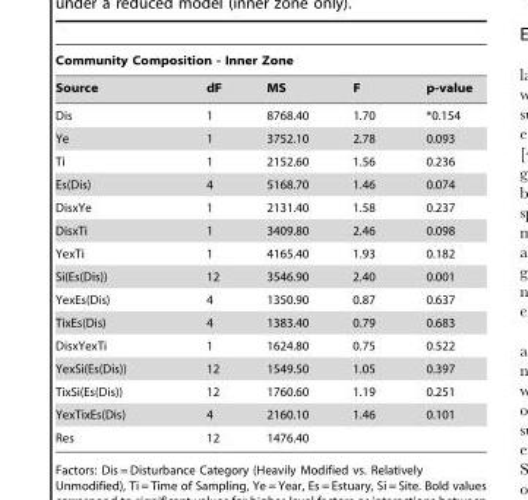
<table><thead><tr><td colspan="5">Community Composition - Inner Zone</td></tr><tr><td>Source</td><td>dF</td><td>MS</td><td>F</td><td>p-value</td></tr></thead><tbody><tr><td>Dis</td><td>1</td><td>8768.40</td><td>1.70</td><td>*0.154</td></tr><tr><td>Ye</td><td>1</td><td>3752.10</td><td>2.78</td><td>0.093</td></tr><tr><td>Ti</td><td>1</td><td>2152.60</td><td>1.56</td><td>0.236</td></tr><tr><td>Es(Dis)</td><td>4</td><td>5168.70</td><td>1.46</td><td>0.074</td></tr><tr><td>DisxYe</td><td>1</td><td>2131.40</td><td>1.58</td><td>0.237</td></tr><tr><td>DisxTi</td><td>1</td><td>3409.80</td><td>2.46</td><td>0.098</td></tr><tr><td>YexTi</td><td>1</td><td>4165.40</td><td>1.93</td><td>0.182</td></tr><tr><td>Si(Es(Dis))</td><td>12</td><td>3546.90</td><td>2.40</td><td>0.001</td></tr><tr><td>YexEs(Dis)</td><td>4</td><td>1350.90</td><td>0.87</td><td>0.637</td></tr><tr><td>TixEs(Dis)</td><td>4</td><td>1383.40</td><td>0.79</td><td>0.683</td></tr><tr><td>DisxYexTi</td><td>1</td><td>1624.80</td><td>0.75</td><td>0.522</td></tr><tr><td>YexSi(Es(Dis))</td><td>12</td><td>1549.50</td><td>1.05</td><td>0.397</td></tr><tr><td>TixSi(Es(Dis))</td><td>12</td><td>1760.60</td><td>1.19</td><td>0.251</td></tr><tr><td>YexTixEs(Dis)</td><td>4</td><td>2160.10</td><td>1.46</td><td>0.101</td></tr><tr><td>Res</td><td>12</td><td>1476.40</td><td></td><td></td></tr></tbody></table>